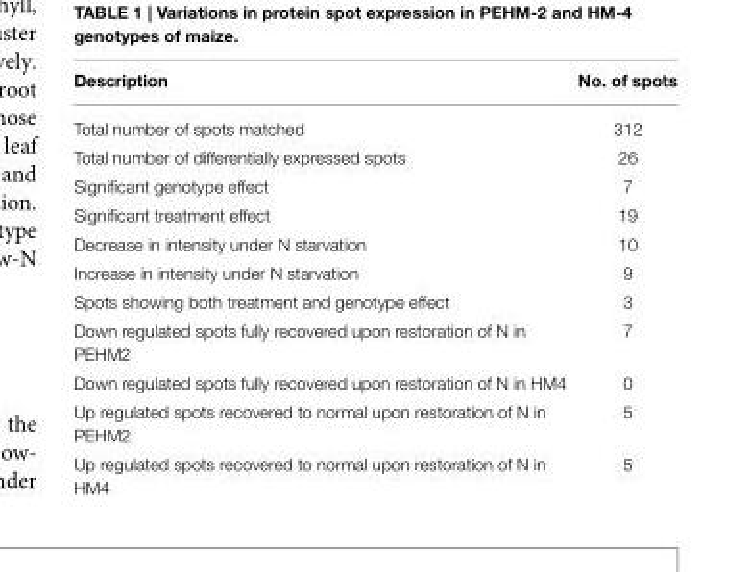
<table><thead><tr><td>Description</td><td>No. of spots</td></tr></thead><tbody><tr><td>Total number of spots matched</td><td>312</td></tr><tr><td>Total number of differentially expressed spots</td><td>26</td></tr><tr><td>Significant genotype effect</td><td>7</td></tr><tr><td>Significant treatment effect</td><td>19</td></tr><tr><td>Decrease in intensity under N starvation</td><td>10</td></tr><tr><td>Increase in intensity under N starvation</td><td>9</td></tr><tr><td>Spots showing both treatment and genotype effect</td><td>3</td></tr><tr><td>Down regulated spots fully recovered upon restoration of N in PEHM2</td><td>7</td></tr><tr><td>Down regulated spots fully recovered upon restoration of N in HM4</td><td>0</td></tr><tr><td>Up regulated spots recovered to normal upon restoration of N in PEHM2</td><td>5</td></tr><tr><td>Up regulated spots recovered to normal upon restoration of N in HM4</td><td>5</td></tr></tbody></table>